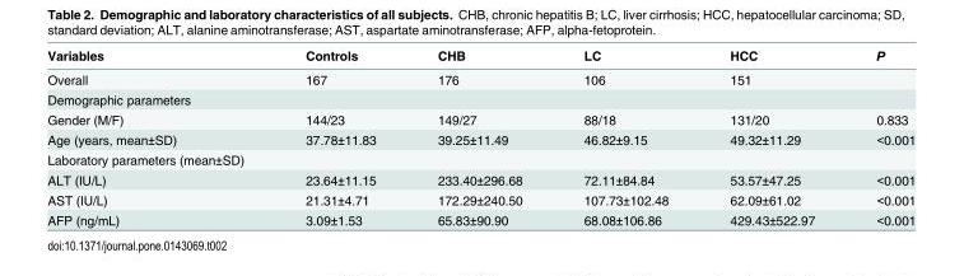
<table><thead><tr><td>Variables</td><td>Controls</td><td>CHB</td><td>LC</td><td>HCC</td><td>P</td></tr></thead><tbody><tr><td>Overall</td><td>167</td><td>176</td><td>106</td><td>151</td><td></td></tr><tr><td colspan="6">Demographic parameters</td></tr><tr><td>Gender (M/F)</td><td>144/23</td><td>149/27</td><td>88/18</td><td>131/20</td><td>0.833</td></tr><tr><td>Age (years, mean±SD)</td><td>37.78±11.83</td><td>39.25±11.49</td><td>46.82±9.15</td><td>49.32±11.29</td><td>&lt;0.001</td></tr><tr><td colspan="6">Laboratory parameters (mean±SD)</td></tr><tr><td>ALT (IU/L)</td><td>23.64±11.15</td><td>233.40±296.68</td><td>72.11±84.84</td><td>53.57±47.25</td><td>&lt;0.001</td></tr><tr><td>AST (IU/L)</td><td>21.31±4.71</td><td>172.29±240.50</td><td>107.73±102.48</td><td>62.09±61.02</td><td>&lt;0.001</td></tr><tr><td>AFP (ng/mL)</td><td>3.09±1.53</td><td>65.83±90.90</td><td>68.08±106.86</td><td>429.43±522.97</td><td>&lt;0.001</td></tr></tbody></table>